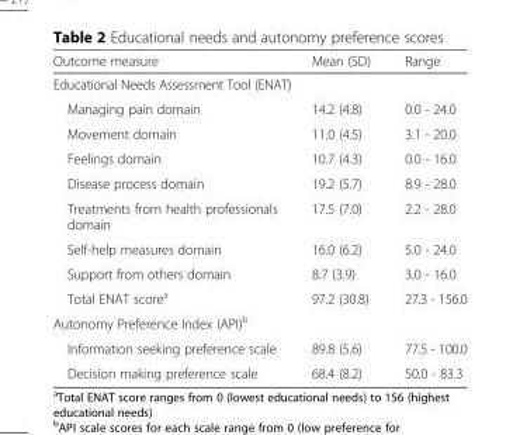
<table><thead><tr><td>Outcome measure</td><td>Mean (SD)</td><td>Range</td></tr></thead><tbody><tr><td colspan="3">Educational Needs Assessment Tool (ENAT)</td></tr><tr><td>Managing pain domain</td><td>14.2 (4.8)</td><td>0.0 - 24.0</td></tr><tr><td>Movement domain</td><td>11.0 (4.5)</td><td>3.1 - 20.0</td></tr><tr><td>Feelings domain</td><td>10.7 (4.3)</td><td>0.0 - 16.0</td></tr><tr><td>Disease process domain</td><td>19.2 (5.7)</td><td>8.9 - 28.0</td></tr><tr><td>Treatments from health professionals domain</td><td>17.5 (7.0)</td><td>2.2 - 28.0</td></tr><tr><td>Self-help measures domain</td><td>16.0 (6.2)</td><td>5.0 - 24.0</td></tr><tr><td>Support from others domain</td><td>8.7 (3.9)</td><td>3.0 - 16.0</td></tr><tr><td>Total ENAT score<sup>a</sup></td><td>97.2 (30.8)</td><td>27.3 - 156.0</td></tr><tr><td colspan="3">Autonomy Preference Index (API)<sup>b</sup></td></tr><tr><td>Information seeking preference scale</td><td>89.8 (5.6)</td><td>77.5 - 100.0</td></tr><tr><td>Decision making preference scale</td><td>68.4 (8.2)</td><td>50.0 - 83.3</td></tr></tbody></table>